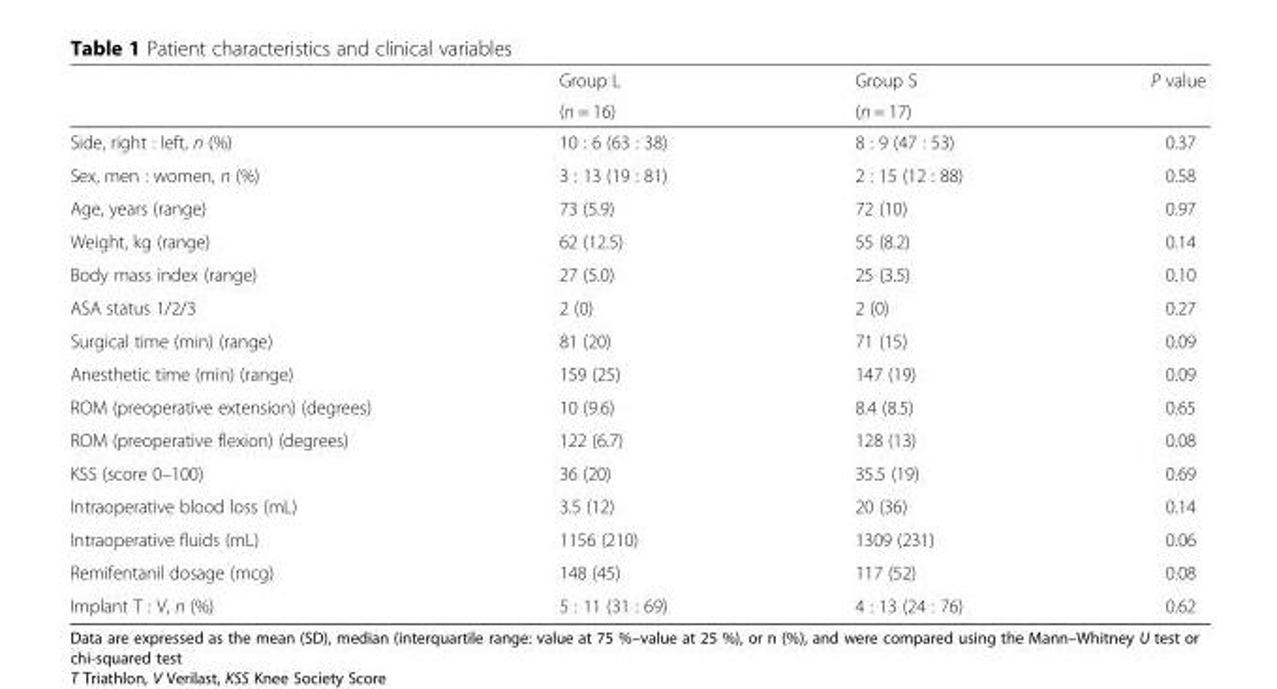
<table><thead><tr><td rowspan="2"></td><td rowspan="2">Group L (n = 16)</td><td rowspan="2">Group S (n = 17)</td><td rowspan="2">P value</td></tr><tr></tr></thead><tbody><tr><td>Side, right : left, n (%)</td><td>10 : 6 (63 : 38)</td><td>8 : 9 (47 : 53)</td><td>0.37</td></tr><tr><td>Sex, men : women, n (%)</td><td>3 : 13 (19 : 81)</td><td>2 : 15 (12 : 88)</td><td>0.58</td></tr><tr><td>Age, years (range)</td><td>73 (5.9)</td><td>72 (10)</td><td>0.97</td></tr><tr><td>Weight, kg (range)</td><td>62 (12.5)</td><td>55 (8.2)</td><td>0.14</td></tr><tr><td>Body mass index (range)</td><td>27 (5.0)</td><td>25 (3.5)</td><td>0.10</td></tr><tr><td>ASA status 1/2/3</td><td>2 (0)</td><td>2 (0)</td><td>0.27</td></tr><tr><td>Surgical time (min) (range)</td><td>81 (20)</td><td>71 (15)</td><td>0.09</td></tr><tr><td>Anesthetic time (min) (range)</td><td>159 (25)</td><td>147 (19)</td><td>0.09</td></tr><tr><td>ROM (preoperative extension) (degrees)</td><td>10 (9.6)</td><td>8.4 (8.5)</td><td>0.65</td></tr><tr><td>ROM (preoperative flexion) (degrees)</td><td>122 (6.7)</td><td>128 (13)</td><td>0.08</td></tr><tr><td>KSS (score 0–100)</td><td>36 (20)</td><td>35.5 (19)</td><td>0.69</td></tr><tr><td>Intraoperative blood loss (mL)</td><td>3.5 (12)</td><td>20 (36)</td><td>0.14</td></tr><tr><td>Intraoperative fluids (mL)</td><td>1156 (210)</td><td>1309 (231)</td><td>0.06</td></tr><tr><td>Remifentanil dosage (mcg)</td><td>148 (45)</td><td>117 (52)</td><td>0.08</td></tr><tr><td>Implant T : V, n (%)</td><td>5 : 11 (31 : 69)</td><td>4 : 13 (24 : 76)</td><td>0.62</td></tr></tbody></table>